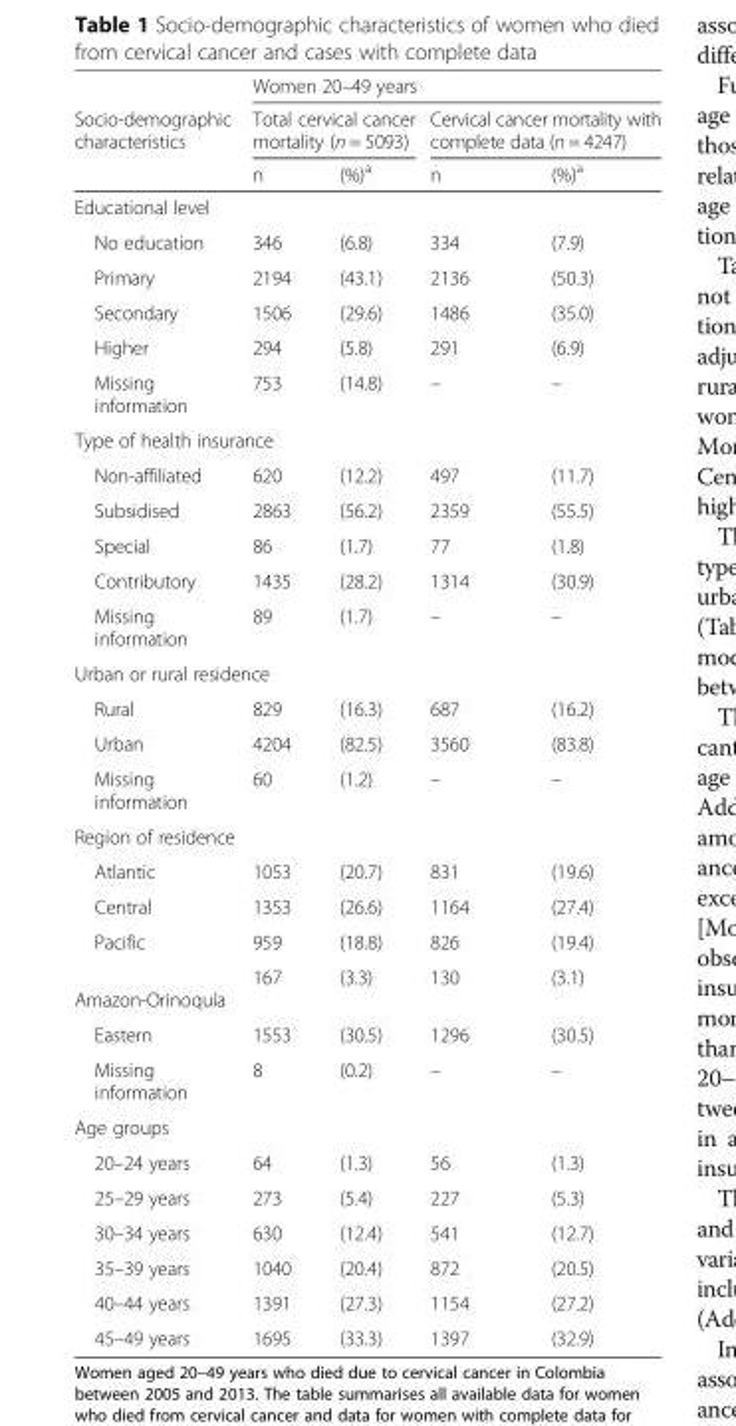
<table><thead><tr><td rowspan="3">Socio-demographic characteristics</td><td colspan="4">Women 20–49 years</td></tr><tr><td colspan="2">Total cervical cancer mortality (n = 5093)</td><td colspan="2">Cervical cancer mortality with complete data (n = 4247)</td></tr><tr><td>n</td><td>(%)<sup>a</sup></td><td>n</td><td>(%)<sup>a</sup></td></tr></thead><tbody><tr><td colspan="5">Educational level</td></tr><tr><td>No education</td><td>346</td><td>(6.8)</td><td>334</td><td>(7.9)</td></tr><tr><td>Primary</td><td>2194</td><td>(43.1)</td><td>2136</td><td>(50.3)</td></tr><tr><td>Secondary</td><td>1506</td><td>(29.6)</td><td>1486</td><td>(35.0)</td></tr><tr><td>Higher</td><td>294</td><td>(5.8)</td><td>291</td><td>(6.9)</td></tr><tr><td>Missing information</td><td>753</td><td>(14.8)</td><td>–</td><td>–</td></tr><tr><td colspan="5">Type of health insurance</td></tr><tr><td>Non-affiliated</td><td>620</td><td>(12.2)</td><td>497</td><td>(11.7)</td></tr><tr><td>Subsidised</td><td>2863</td><td>(56.2)</td><td>2359</td><td>(55.5)</td></tr><tr><td>Special</td><td>86</td><td>(1.7)</td><td>77</td><td>(1.8)</td></tr><tr><td>Contributory</td><td>1435</td><td>(28.2)</td><td>1314</td><td>(30.9)</td></tr><tr><td>Missing information</td><td>89</td><td>(1.7)</td><td>–</td><td>–</td></tr><tr><td colspan="5">Urban or rural residence</td></tr><tr><td>Rural</td><td>829</td><td>(16.3)</td><td>687</td><td>(16.2)</td></tr><tr><td>Urban</td><td>4204</td><td>(82.5)</td><td>3560</td><td>(83.8)</td></tr><tr><td>Missing information</td><td>60</td><td>(1.2)</td><td>–</td><td>–</td></tr><tr><td colspan="5">Region of residence</td></tr><tr><td>Atlantic</td><td>1053</td><td>(20.7)</td><td>831</td><td>(19.6)</td></tr><tr><td>Central</td><td>1353</td><td>(26.6)</td><td>1164</td><td>(27.4)</td></tr><tr><td>Pacific</td><td>959</td><td>(18.8)</td><td>826</td><td>(19.4)</td></tr><tr><td>Amazon-Orinoquía</td><td>167</td><td>(3.3)</td><td>130</td><td>(3.1)</td></tr><tr><td>Eastern</td><td>1553</td><td>(30.5)</td><td>1296</td><td>(30.5)</td></tr><tr><td>Missing information</td><td>8</td><td>(0.2)</td><td>–</td><td>–</td></tr><tr><td colspan="5">Age groups</td></tr><tr><td>20–24 years</td><td>64</td><td>(1.3)</td><td>56</td><td>(1.3)</td></tr><tr><td>25–29 years</td><td>273</td><td>(5.4)</td><td>227</td><td>(5.3)</td></tr><tr><td>30–34 years</td><td>630</td><td>(12.4)</td><td>541</td><td>(12.7)</td></tr><tr><td>35–39 years</td><td>1040</td><td>(20.4)</td><td>872</td><td>(20.5)</td></tr><tr><td>40–44 years</td><td>1391</td><td>(27.3)</td><td>1154</td><td>(27.2)</td></tr><tr><td>45–49 years</td><td>1695</td><td>(33.3)</td><td>1397</td><td>(32.9)</td></tr></tbody></table>